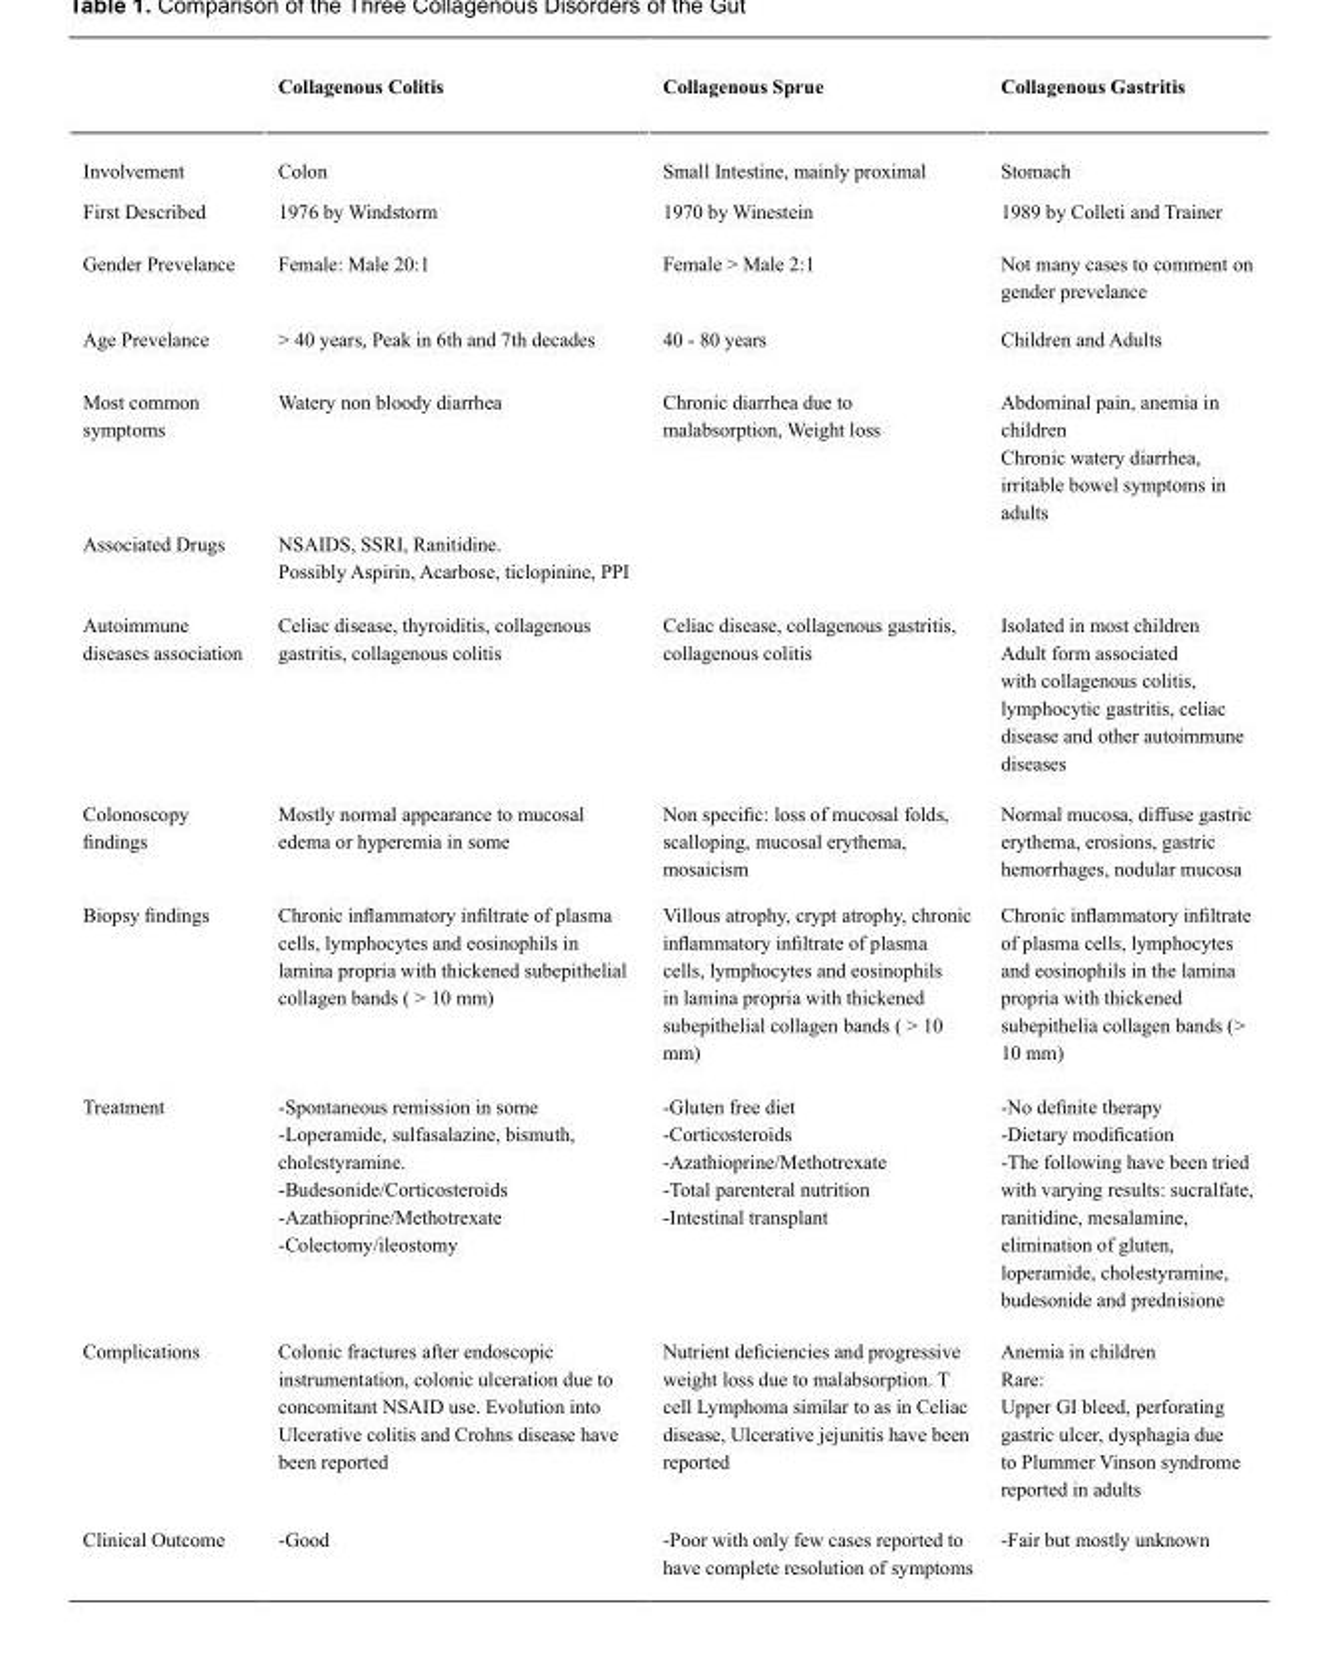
<table><thead><tr><td></td><td>Collagenous Colitis</td><td>Collagenous Sprue</td><td>Collagenous Gastritis</td></tr></thead><tbody><tr><td>Involvement</td><td>Colon</td><td>Small Intestine, mainly proximal</td><td>Stomach</td></tr><tr><td>First Described</td><td>1976 by Windstorm</td><td>1970 by Winestein</td><td>1989 by Colleti and Trainer</td></tr><tr><td>Gender Prevelance</td><td>Female: Male 20:1</td><td>Female &gt; Male 2:1</td><td>Not many cases to comment on gender prevelance</td></tr><tr><td>Age Prevelance</td><td>&gt; 40 years, Peak in 6th and 7th decades</td><td>40 - 80 years</td><td>Children and Adults</td></tr><tr><td>Most common symptoms</td><td>Watery non bloody diarrhea</td><td>Chronic diarrhea due to malabsorption, Weight loss</td><td>Abdominal pain, anemia in children Chronic watery diarrhea, irritable bowel symptoms in adults</td></tr><tr><td>Associated Drugs</td><td>NSAIDS, SSRI, Ranitidine. Possibly Aspirin, Acarbose, ticlopinine, PPI</td><td></td><td></td></tr><tr><td>Autoimmune diseases association</td><td>Celiac disease, thyroiditis, collagenous gastritis, collagenous colitis</td><td>Celiac disease, collagenous gastritis, collagenous colitis</td><td>Isolated in most children Adult form associated with collagenous colitis, lymphocytic gastritis, celiac disease and other autoimmune diseases</td></tr><tr><td>Colonoscopy findings</td><td>Mostly normal appearance to mucosal edema or hyperemia in some</td><td>Non specific: loss of mucosal folds, scalloping, mucosal erythema, mosaicism</td><td>Normal mucosa, diffuse gastric erythema, erosions, gastric hemorrhages, nodular mucosa</td></tr><tr><td>Biopsy findings</td><td>Chronic inflammatory infiltrate of plasma cells, lymphocytes and eosinophils in lamina propria with thickened subepithelial collagen bands ( &gt; 10 mm)</td><td>Villous atrophy, crypt atrophy, chronic inflammatory infiltrate of plasma cells, lymphocytes and eosinophils in lamina propria with thickened subepithelial collagen bands ( &gt; 10 mm)</td><td>Chronic inflammatory infiltrate of plasma cells, lymphocytes and eosinophils in the lamina propria with thickened subepithelia collagen bands (&gt; 10 mm)</td></tr><tr><td>Treatment</td><td>-Spontaneous remission in some -Loperamide, sulfasalazine, bismuth, cholestyramine. -Budesonide/Corticosteroids -Azathioprine/Methotrexate -Colectomy/ileostomy</td><td>-Gluten free diet -Corticosteroids -Azathioprine/Methotrexate -Total parenteral nutrition -Intestinal transplant</td><td>-No definite therapy -Dietary modification -The following have been tried with varying results: sucralfate, ranitidine, mesalamine, elimination of gluten, loperamide, cholestyramine, budesonide and prednisione</td></tr><tr><td>Complications</td><td>Colonic fractures after endoscopic instrumentation, colonic ulceration due to concomitant NSAID use. Evolution into Ulcerative colitis and Crohns disease have been reported</td><td>Nutrient deficiencies and progressive weight loss due to malabsorption. T cell Lymphoma similar to as in Celiac disease, Ulcerative jejunitis have been reported</td><td>Anemia in children Rare: Upper GI bleed, perforating gastric ulcer, dysphagia due to Plummer Vinson syndrome reported in adults</td></tr><tr><td>Clinical Outcome</td><td>-Good</td><td>-Poor with only few cases reported to have complete resolution of symptoms</td><td>-Fair but mostly unknown</td></tr></tbody></table>